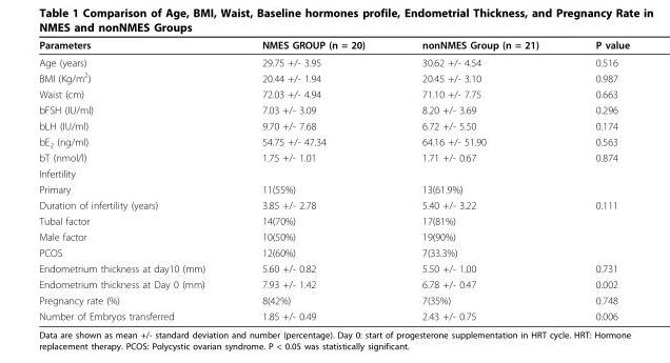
<table><thead><tr><td>Parameters</td><td>NMES GROUP (n = 20)</td><td>nonNMES Group (n = 21)</td><td>P value</td></tr></thead><tbody><tr><td>Age (years)</td><td>29.75 +/- 3.95</td><td>30.62 +/- 4.54</td><td>0.516</td></tr><tr><td>BMI (Kg/m<sup>2</sup>)</td><td>20.44 +/- 1.94</td><td>20.45 +/- 3.10</td><td>0.987</td></tr><tr><td>Waist (cm)</td><td>72.03 +/- 4.94</td><td>71.10 +/- 7.75</td><td>0.663</td></tr><tr><td>bFSH (IU/ml)</td><td>7.03 +/- 3.09</td><td>8.20 +/- 3.69</td><td>0.296</td></tr><tr><td>bLH (IU/ml)</td><td>9.70 +/- 7.68</td><td>6.72 +/- 5.50</td><td>0.174</td></tr><tr><td>bE<sub>2</sub> (ng/ml)</td><td>54.75 +/- 47.34</td><td>64.16 +/- 51.90</td><td>0.563</td></tr><tr><td>bT (nmol/l)</td><td>1.75 +/- 1.01</td><td>1.71 +/- 0.67</td><td>0.874</td></tr><tr><td colspan="4">Infertility</td></tr><tr><td>Primary</td><td>11(55%)</td><td>13(61.9%)</td><td></td></tr><tr><td>Duration of infertility (years)</td><td>3.85 +/- 2.78</td><td>5.40 +/- 3.22</td><td>0.111</td></tr><tr><td>Tubal factor</td><td>14(70%)</td><td>17(81%)</td><td></td></tr><tr><td>Male factor</td><td>10(50%)</td><td>19(90%)</td><td></td></tr><tr><td>PCOS</td><td>12(60%)</td><td>7(33.3%)</td><td></td></tr><tr><td>Endometrium thickness at day10 (mm)</td><td>5.60 +/- 0.82</td><td>5.50 +/- 1.00</td><td>0.731</td></tr><tr><td>Endometrium thickness at Day 0 (mm)</td><td>7.93 +/- 1.42</td><td>6.78 +/- 0.47</td><td>0.002</td></tr><tr><td>Pregnancy rate (%)</td><td>8(42%)</td><td>7(35%)</td><td>0.748</td></tr><tr><td>Number of Embryos transferred</td><td>1.85 +/- 0.49</td><td>2.43 +/- 0.75</td><td>0.006</td></tr></tbody></table>